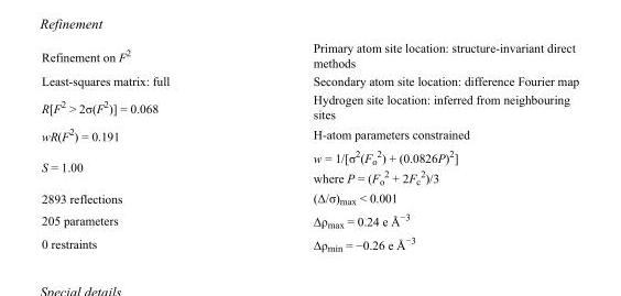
<table><tbody><tr><td>Refinement on F<sup>2</sup></td><td>Primary atom site location: structure-invariant direct methods</td></tr><tr><td>Least-squares matrix: full</td><td>Secondary atom site location: difference Fourier map</td></tr><tr><td>R[F<sup>2</sup> &gt; 2σ(F<sup>2</sup>)] = 0.068</td><td>Hydrogen site location: inferred from neighbouring sites</td></tr><tr><td>wR(F<sup>2</sup>) = 0.191</td><td>H-atom parameters constrained</td></tr><tr><td>S = 1.00</td><td>w = 1/[σ<sup>2</sup>(F<sub>o</sub> <sup>2</sup>) + (0.0826P)<sup>2</sup>] where P = (F<sub>o</sub> <sup>2</sup> + 2F<sub>c</sub> <sup>2</sup>)/3</td></tr><tr><td>2893 reflections</td><td>(Δ/σ)<sub>max</sub> &lt; 0.001</td></tr><tr><td>205 parameters</td><td>Δρ<sub>max</sub> = 0.24 e Å<sup>−3</sup></td></tr><tr><td>0 restraints</td><td>Δρ<sub>min</sub> = −0.26 e Å<sup>−3</sup></td></tr></tbody></table>